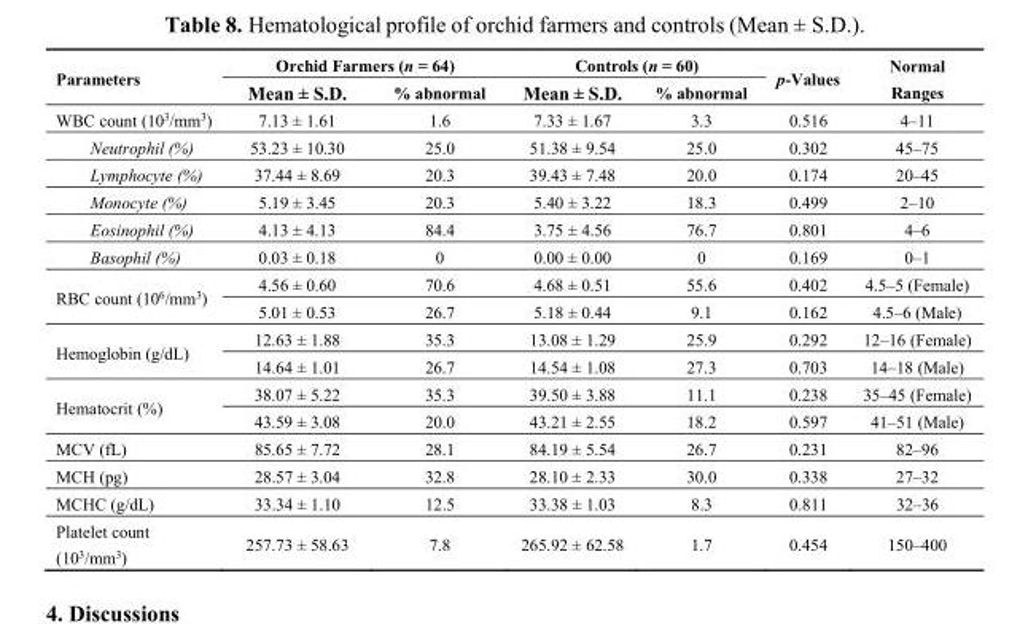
<table><thead><tr><td rowspan="2">Parameters</td><td colspan="2">Orchid Farmers (n = 64)</td><td colspan="2">Controls (n = 60)</td><td rowspan="2">p-Values</td><td rowspan="2">Normal Ranges</td></tr><tr><td>Mean ± S.D.</td><td>% abnormal</td><td>Mean ± S.D.</td><td>% abnormal</td></tr></thead><tbody><tr><td>WBC count (10<sup>3</sup>/mm<sup>3</sup>)</td><td>7.13 ± 1.61</td><td>1.6</td><td>7.33 ± 1.67</td><td>3.3</td><td>0.516</td><td>4–11</td></tr><tr><td>Neutrophil (%)</td><td>53.23 ± 10.30</td><td>25.0</td><td>51.38 ± 9.54</td><td>25.0</td><td>0.302</td><td>45–75</td></tr><tr><td>Lymphocyte (%)</td><td>37.44 ± 8.69</td><td>20.3</td><td>39.43 ± 7.48</td><td>20.0</td><td>0.174</td><td>20–45</td></tr><tr><td>Monocyte (%)</td><td>5.19 ± 3.45</td><td>20.3</td><td>5.40 ± 3.22</td><td>18.3</td><td>0.499</td><td>2–10</td></tr><tr><td>Eosinophil (%)</td><td>4.13 ± 4.13</td><td>84.4</td><td>3.75 ± 4.56</td><td>76.7</td><td>0.801</td><td>4–6</td></tr><tr><td>Basophil (%)</td><td>0.03 ± 0.18</td><td>0</td><td>0.00 ± 0.00</td><td>0</td><td>0.169</td><td>0–1</td></tr><tr><td rowspan="2">RBC count (10<sup>6</sup>/mm<sup>3</sup>)</td><td>4.56 ± 0.60</td><td>70.6</td><td>4.68 ± 0.51</td><td>55.6</td><td>0.402</td><td>4.5–5 (Female)</td></tr><tr><td>5.01 ± 0.53</td><td>26.7</td><td>5.18 ± 0.44</td><td>9.1</td><td>0.162</td><td>4.5–6 (Male)</td></tr><tr><td rowspan="2">Hemoglobin (g/dL)</td><td>12.63 ± 1.88</td><td>35.3</td><td>13.08 ± 1.29</td><td>25.9</td><td>0.292</td><td>12–16 (Female)</td></tr><tr><td>14.64 ± 1.01</td><td>26.7</td><td>14.54 ± 1.08</td><td>27.3</td><td>0.703</td><td>14–18 (Male)</td></tr><tr><td rowspan="2">Hematocrit (%)</td><td>38.07 ± 5.22</td><td>35.3</td><td>39.50 ± 3.88</td><td>11.1</td><td>0.238</td><td>35–45 (Female)</td></tr><tr><td>43.59 ± 3.08</td><td>20.0</td><td>43.21 ± 2.55</td><td>18.2</td><td>0.597</td><td>41–51 (Male)</td></tr><tr><td>MCV (fL)</td><td>85.65 ± 7.72</td><td>28.1</td><td>84.19 ± 5.54</td><td>26.7</td><td>0.231</td><td>82–96</td></tr><tr><td>MCH (pg)</td><td>28.57 ± 3.04</td><td>32.8</td><td>28.10 ± 2.33</td><td>30.0</td><td>0.338</td><td>27–32</td></tr><tr><td>MCHC (g/dL)</td><td>33.34 ± 1.10</td><td>12.5</td><td>33.38 ± 1.03</td><td>8.3</td><td>0.811</td><td>32–36</td></tr><tr><td>Platelet count (10<sup>3</sup>/mm<sup>3</sup>)</td><td>257.73 ± 58.63</td><td>7.8</td><td>265.92 ± 62.58</td><td>1.7</td><td>0.454</td><td>150–400</td></tr></tbody></table>